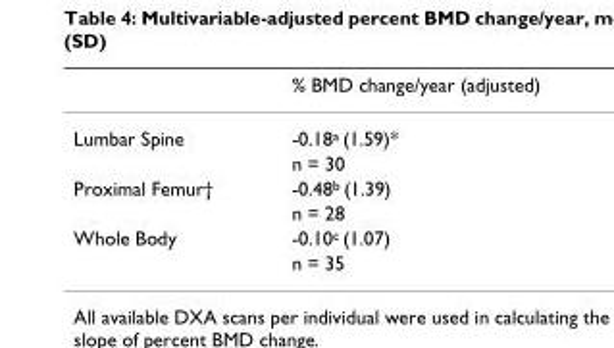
<table><thead><tr><td></td><td>% BMD change/year (adjusted)</td></tr></thead><tbody><tr><td rowspan="2">Lumbar Spine</td><td>-0.18<sup>a</sup> (1.59)*</td></tr><tr><td>n = 30</td></tr><tr><td rowspan="2">Proximal Femur†</td><td>-0.48<sup>b</sup> (1.39)</td></tr><tr><td>n = 28</td></tr><tr><td rowspan="2">Whole Body</td><td>-0.10<sup>c</sup> (1.07)</td></tr><tr><td>n = 35</td></tr></tbody></table>